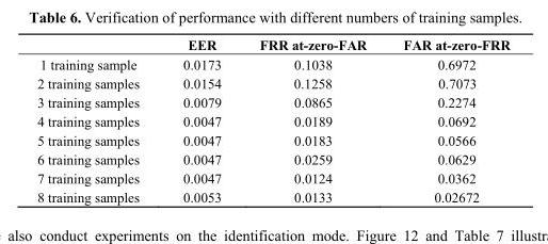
<table><thead><tr><td></td><td>EER</td><td>FRR at-zero-FAR</td><td>FAR at-zero-FRR</td></tr></thead><tbody><tr><td>1 training sample</td><td>0.0173</td><td>0.1038</td><td>0.6972</td></tr><tr><td>2 training samples</td><td>0.0154</td><td>0.1258</td><td>0.7073</td></tr><tr><td>3 training samples</td><td>0.0079</td><td>0.0865</td><td>0.2274</td></tr><tr><td>4 training samples</td><td>0.0047</td><td>0.0189</td><td>0.0692</td></tr><tr><td>5 training samples</td><td>0.0047</td><td>0.0183</td><td>0.0566</td></tr><tr><td>6 training samples</td><td>0.0047</td><td>0.0259</td><td>0.0629</td></tr><tr><td>7 training samples</td><td>0.0047</td><td>0.0124</td><td>0.0362</td></tr><tr><td>8 training samples</td><td>0.0053</td><td>0.0133</td><td>0.02672</td></tr></tbody></table>